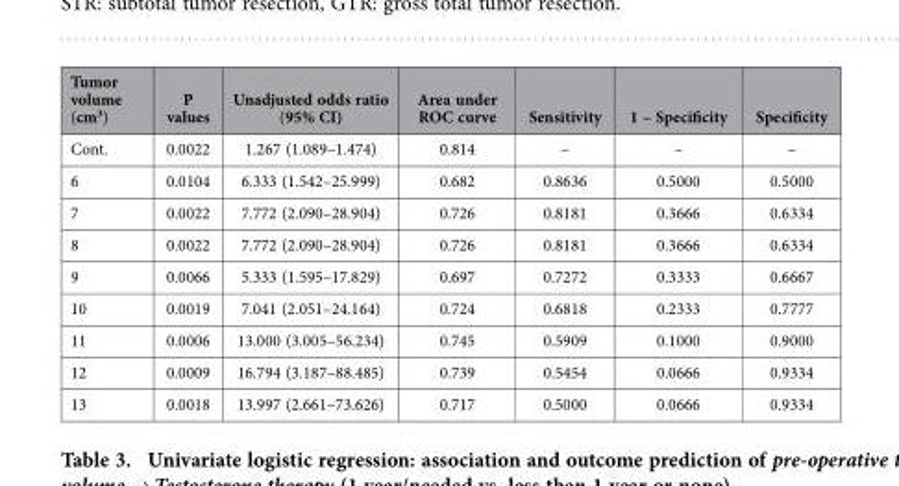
<table><thead><tr><td>Tumor volume (cm<sup>3</sup>)</td><td>P values</td><td>Unadjusted odds ratio (95% CI)</td><td>Area under ROC curve</td><td>Sensitivity</td><td>1 – Specificity</td><td>Specificity</td></tr></thead><tbody><tr><td>Cont.</td><td>0.0022</td><td>1.267 (1.089–1.474)</td><td>0.814</td><td>–</td><td>–</td><td>–</td></tr><tr><td>6</td><td>0.0104</td><td>6.333 (1.542–25.999)</td><td>0.682</td><td>0.8636</td><td>0.5000</td><td>0.5000</td></tr><tr><td>7</td><td>0.0022</td><td>7.772 (2.090–28.904)</td><td>0.726</td><td>0.8181</td><td>0.3666</td><td>0.6334</td></tr><tr><td>8</td><td>0.0022</td><td>7.772 (2.090–28.904)</td><td>0.726</td><td>0.8181</td><td>0.3666</td><td>0.6334</td></tr><tr><td>9</td><td>0.0066</td><td>5.333 (1.595–17.829)</td><td>0.697</td><td>0.7272</td><td>0.3333</td><td>0.6667</td></tr><tr><td>10</td><td>0.0019</td><td>7.041 (2.051–24.164)</td><td>0.724</td><td>0.6818</td><td>0.2333</td><td>0.7777</td></tr><tr><td>11</td><td>0.0006</td><td>13.000 (3.005–56.234)</td><td>0.745</td><td>0.5909</td><td>0.1000</td><td>0.9000</td></tr><tr><td>12</td><td>0.0009</td><td>16.794 (3.187–88.485)</td><td>0.739</td><td>0.5454</td><td>0.0666</td><td>0.9334</td></tr><tr><td>13</td><td>0.0018</td><td>13.997 (2.661–73.626)</td><td>0.717</td><td>0.5000</td><td>0.0666</td><td>0.9334</td></tr></tbody></table>